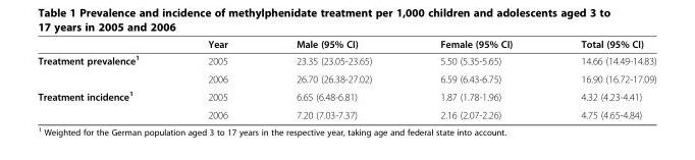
<table><thead><tr><td></td><td>Year</td><td>Male (95% CI)</td><td>Female (95% CI)</td><td>Total (95% CI)</td></tr></thead><tbody><tr><td rowspan="2">Treatment prevalence<sup>1</sup></td><td>2005</td><td>23.35 (23.05-23.65)</td><td>5.50 (5.35-5.65)</td><td>14.66 (14.49-14.83)</td></tr><tr><td>2006</td><td>26.70 (26.38-27.02)</td><td>6.59 (6.43-6.75)</td><td>16.90 (16.72-17.09)</td></tr><tr><td rowspan="2">Treatment incidence<sup>1</sup></td><td>2005</td><td>6.65 (6.48-6.81)</td><td>1.87 (1.78-1.96)</td><td>4.32 (4.23-4.41)</td></tr><tr><td>2006</td><td>7.20 (7.03-7.37)</td><td>2.16 (2.07-2.26)</td><td>4.75 (4.65-4.84)</td></tr></tbody></table>